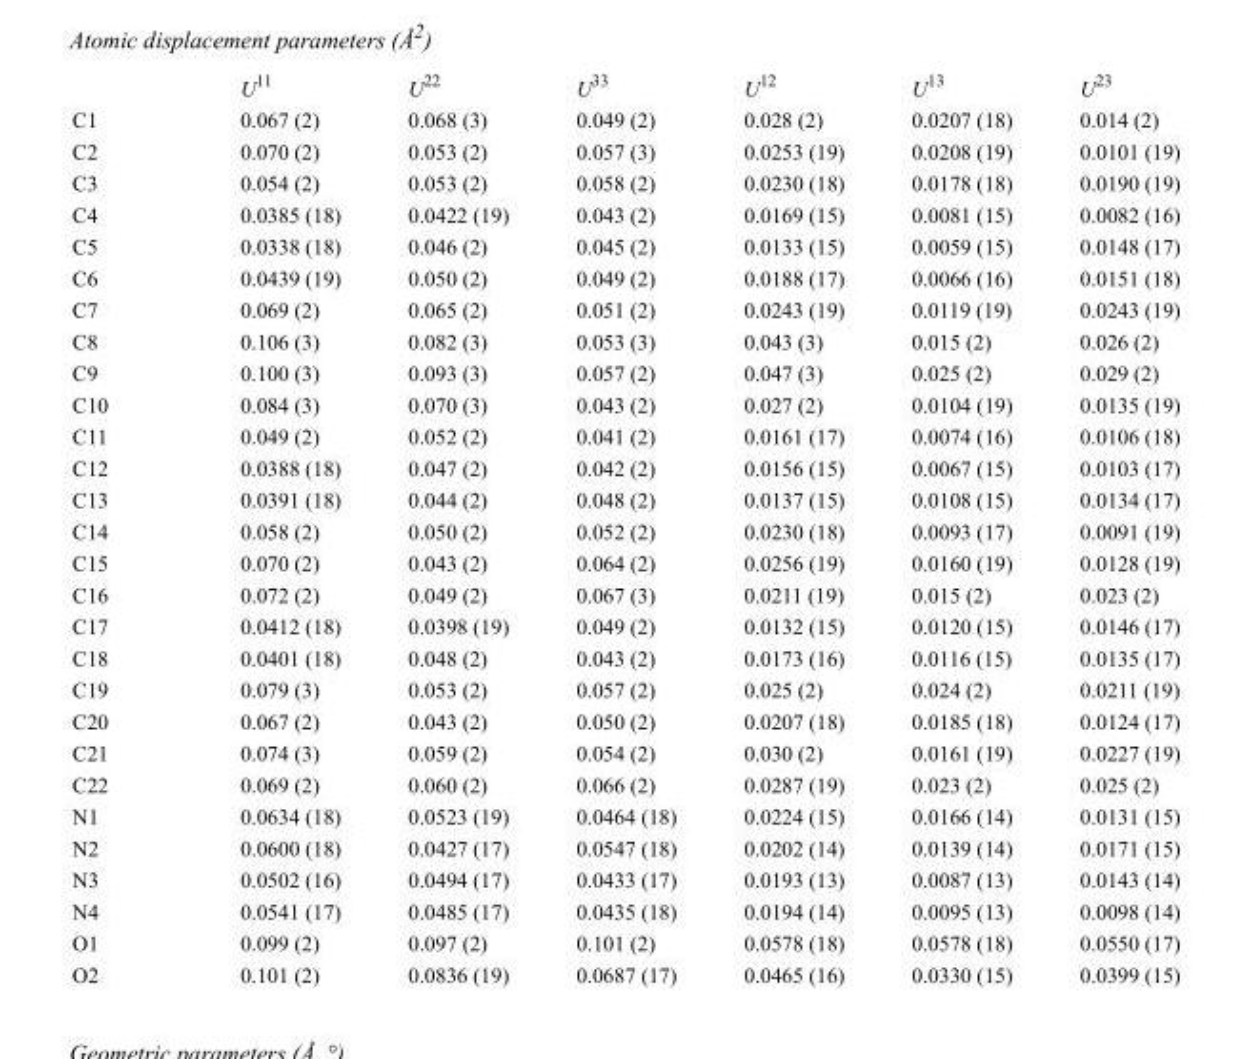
<table><thead><tr><td></td><td>U<sup>11</sup></td><td>U<sup>22</sup></td><td>U<sup>33</sup></td><td>U<sup>12</sup></td><td>U<sup>13</sup></td><td>U<sup>23</sup></td></tr></thead><tbody><tr><td>C1</td><td>0.067 (2)</td><td>0.068 (3)</td><td>0.049 (2)</td><td>0.028 (2)</td><td>0.0207 (18)</td><td>0.014 (2)</td></tr><tr><td>C2</td><td>0.070 (2)</td><td>0.053 (2)</td><td>0.057 (3)</td><td>0.0253 (19)</td><td>0.0208 (19)</td><td>0.0101 (19)</td></tr><tr><td>C3</td><td>0.054 (2)</td><td>0.053 (2)</td><td>0.058 (2)</td><td>0.0230 (18)</td><td>0.0178 (18)</td><td>0.0190 (19)</td></tr><tr><td>C4</td><td>0.0385 (18)</td><td>0.0422 (19)</td><td>0.043 (2)</td><td>0.0169 (15)</td><td>0.0081 (15)</td><td>0.0082 (16)</td></tr><tr><td>C5</td><td>0.0338 (18)</td><td>0.046 (2)</td><td>0.045 (2)</td><td>0.0133 (15)</td><td>0.0059 (15)</td><td>0.0148 (17)</td></tr><tr><td>C6</td><td>0.0439 (19)</td><td>0.050 (2)</td><td>0.049 (2)</td><td>0.0188 (17)</td><td>0.0066 (16)</td><td>0.0151 (18)</td></tr><tr><td>C7</td><td>0.069 (2)</td><td>0.065 (2)</td><td>0.051 (2)</td><td>0.0243 (19)</td><td>0.0119 (19)</td><td>0.0243 (19)</td></tr><tr><td>C8</td><td>0.106 (3)</td><td>0.082 (3)</td><td>0.053 (3)</td><td>0.043 (3)</td><td>0.015 (2)</td><td>0.026 (2)</td></tr><tr><td>C9</td><td>0.100 (3)</td><td>0.093 (3)</td><td>0.057 (2)</td><td>0.047 (3)</td><td>0.025 (2)</td><td>0.029 (2)</td></tr><tr><td>C10</td><td>0.084 (3)</td><td>0.070 (3)</td><td>0.043 (2)</td><td>0.027 (2)</td><td>0.0104 (19)</td><td>0.0135 (19)</td></tr><tr><td>C11</td><td>0.049 (2)</td><td>0.052 (2)</td><td>0.041 (2)</td><td>0.0161 (17)</td><td>0.0074 (16)</td><td>0.0106 (18)</td></tr><tr><td>C12</td><td>0.0388 (18)</td><td>0.047 (2)</td><td>0.042 (2)</td><td>0.0156 (15)</td><td>0.0067 (15)</td><td>0.0103 (17)</td></tr><tr><td>C13</td><td>0.0391 (18)</td><td>0.044 (2)</td><td>0.048 (2)</td><td>0.0137 (15)</td><td>0.0108 (15)</td><td>0.0134 (17)</td></tr><tr><td>C14</td><td>0.058 (2)</td><td>0.050 (2)</td><td>0.052 (2)</td><td>0.0230 (18)</td><td>0.0093 (17)</td><td>0.0091 (19)</td></tr><tr><td>C15</td><td>0.070 (2)</td><td>0.043 (2)</td><td>0.064 (2)</td><td>0.0256 (19)</td><td>0.0160 (19)</td><td>0.0128 (19)</td></tr><tr><td>C16</td><td>0.072 (2)</td><td>0.049 (2)</td><td>0.067 (3)</td><td>0.0211 (19)</td><td>0.015 (2)</td><td>0.023 (2)</td></tr><tr><td>C17</td><td>0.0412 (18)</td><td>0.0398 (19)</td><td>0.049 (2)</td><td>0.0132 (15)</td><td>0.0120 (15)</td><td>0.0146 (17)</td></tr><tr><td>C18</td><td>0.0401 (18)</td><td>0.048 (2)</td><td>0.043 (2)</td><td>0.0173 (16)</td><td>0.0116 (15)</td><td>0.0135 (17)</td></tr><tr><td>C19</td><td>0.079 (3)</td><td>0.053 (2)</td><td>0.057 (2)</td><td>0.025 (2)</td><td>0.024 (2)</td><td>0.0211 (19)</td></tr><tr><td>C20</td><td>0.067 (2)</td><td>0.043 (2)</td><td>0.050 (2)</td><td>0.0207 (18)</td><td>0.0185 (18)</td><td>0.0124 (17)</td></tr><tr><td>C21</td><td>0.074 (3)</td><td>0.059 (2)</td><td>0.054 (2)</td><td>0.030 (2)</td><td>0.0161 (19)</td><td>0.0227 (19)</td></tr><tr><td>C22</td><td>0.069 (2)</td><td>0.060 (2)</td><td>0.066 (2)</td><td>0.0287 (19)</td><td>0.023 (2)</td><td>0.025 (2)</td></tr><tr><td>N1</td><td>0.0634 (18)</td><td>0.0523 (19)</td><td>0.0464 (18)</td><td>0.0224 (15)</td><td>0.0166 (14)</td><td>0.0131 (15)</td></tr><tr><td>N2</td><td>0.0600 (18)</td><td>0.0427 (17)</td><td>0.0547 (18)</td><td>0.0202 (14)</td><td>0.0139 (14)</td><td>0.0171 (15)</td></tr><tr><td>N3</td><td>0.0502 (16)</td><td>0.0494 (17)</td><td>0.0433 (17)</td><td>0.0193 (13)</td><td>0.0087 (13)</td><td>0.0143 (14)</td></tr><tr><td>N4</td><td>0.0541 (17)</td><td>0.0485 (17)</td><td>0.0435 (18)</td><td>0.0194 (14)</td><td>0.0095 (13)</td><td>0.0098 (14)</td></tr><tr><td>O1</td><td>0.099 (2)</td><td>0.097 (2)</td><td>0.101 (2)</td><td>0.0578 (18)</td><td>0.0578 (18)</td><td>0.0550 (17)</td></tr><tr><td>O2</td><td>0.101 (2)</td><td>0.0836 (19)</td><td>0.0687 (17)</td><td>0.0465 (16)</td><td>0.0330 (15)</td><td>0.0399 (15)</td></tr></tbody></table>